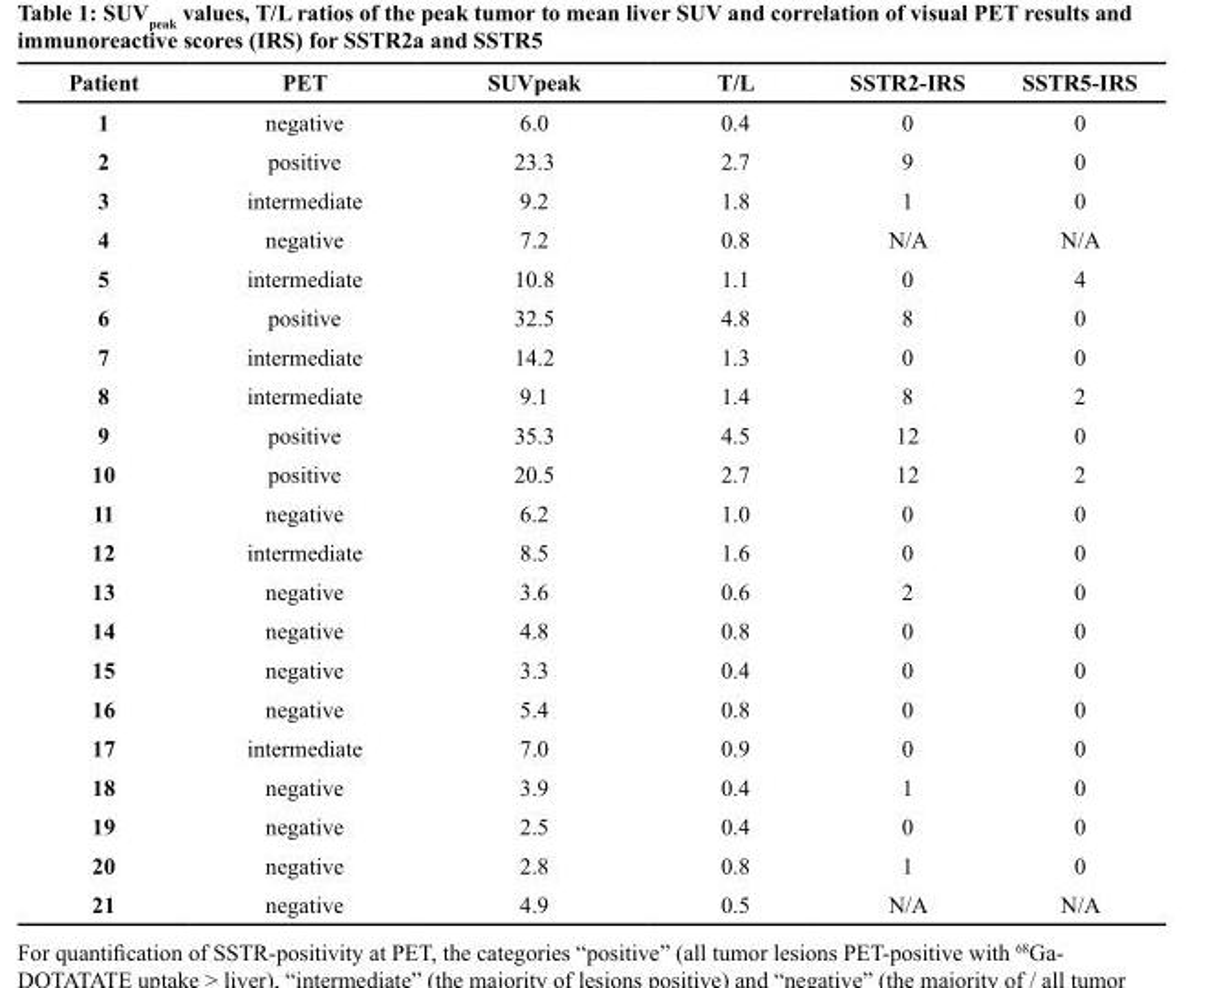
<table><thead><tr><td>Patient</td><td>PET</td><td>SUVpeak</td><td>T/L</td><td>SSTR2-IRS</td><td>SSTR5-IRS</td></tr></thead><tbody><tr><td>1</td><td>negative</td><td>6.0</td><td>0.4</td><td>0</td><td>0</td></tr><tr><td>2</td><td>positive</td><td>23.3</td><td>2.7</td><td>9</td><td>0</td></tr><tr><td>3</td><td>intermediate</td><td>9.2</td><td>1.8</td><td>1</td><td>0</td></tr><tr><td>4</td><td>negative</td><td>7.2</td><td>0.8</td><td>N/A</td><td>N/A</td></tr><tr><td>5</td><td>intermediate</td><td>10.8</td><td>1.1</td><td>0</td><td>4</td></tr><tr><td>6</td><td>positive</td><td>32.5</td><td>4.8</td><td>8</td><td>0</td></tr><tr><td>7</td><td>intermediate</td><td>14.2</td><td>1.3</td><td>0</td><td>0</td></tr><tr><td>8</td><td>intermediate</td><td>9.1</td><td>1.4</td><td>8</td><td>2</td></tr><tr><td>9</td><td>positive</td><td>35.3</td><td>4.5</td><td>12</td><td>0</td></tr><tr><td>10</td><td>positive</td><td>20.5</td><td>2.7</td><td>12</td><td>2</td></tr><tr><td>11</td><td>negative</td><td>6.2</td><td>1.0</td><td>0</td><td>0</td></tr><tr><td>12</td><td>intermediate</td><td>8.5</td><td>1.6</td><td>0</td><td>0</td></tr><tr><td>13</td><td>negative</td><td>3.6</td><td>0.6</td><td>2</td><td>0</td></tr><tr><td>14</td><td>negative</td><td>4.8</td><td>0.8</td><td>0</td><td>0</td></tr><tr><td>15</td><td>negative</td><td>3.3</td><td>0.4</td><td>0</td><td>0</td></tr><tr><td>16</td><td>negative</td><td>5.4</td><td>0.8</td><td>0</td><td>0</td></tr><tr><td>17</td><td>intermediate</td><td>7.0</td><td>0.9</td><td>0</td><td>0</td></tr><tr><td>18</td><td>negative</td><td>3.9</td><td>0.4</td><td>1</td><td>0</td></tr><tr><td>19</td><td>negative</td><td>2.5</td><td>0.4</td><td>0</td><td>0</td></tr><tr><td>20</td><td>negative</td><td>2.8</td><td>0.8</td><td>1</td><td>0</td></tr><tr><td>21</td><td>negative</td><td>4.9</td><td>0.5</td><td>N/A</td><td>N/A</td></tr></tbody></table>